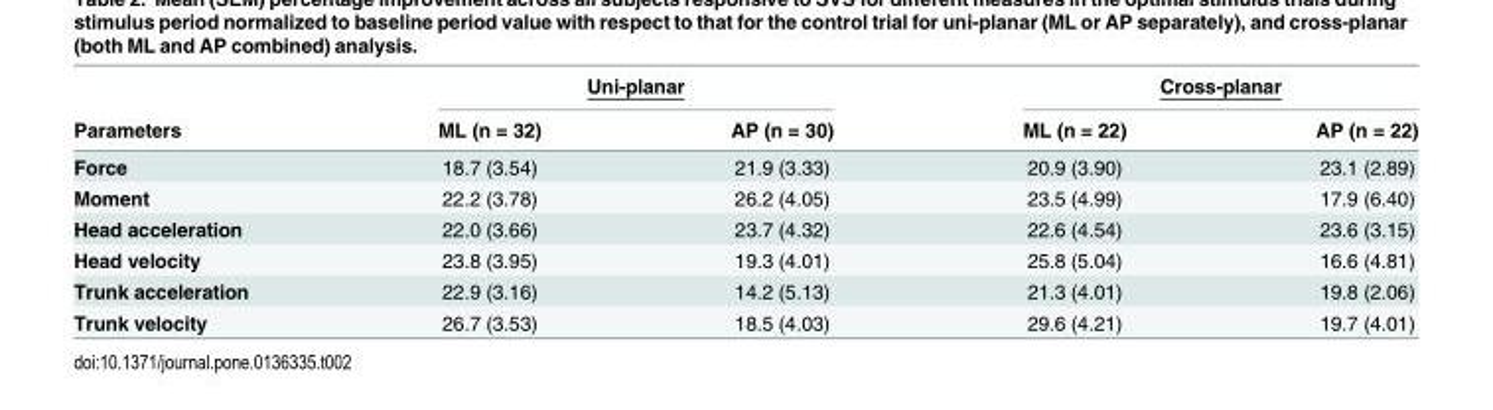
<table><thead><tr><td rowspan="2">Parameters</td><td colspan="2">Uni-planar</td><td colspan="2">Cross-planar</td></tr><tr><td>ML (n = 32)</td><td>AP (n = 30)</td><td>ML (n = 22)</td><td>AP (n = 22)</td></tr></thead><tbody><tr><td>Force</td><td>18.7 (3.54)</td><td>21.9 (3.33)</td><td>20.9 (3.90)</td><td>23.1 (2.89)</td></tr><tr><td>Moment</td><td>22.2 (3.78)</td><td>26.2 (4.05)</td><td>23.5 (4.99)</td><td>17.9 (6.40)</td></tr><tr><td>Head acceleration</td><td>22.0 (3.66)</td><td>23.7 (4.32)</td><td>22.6 (4.54)</td><td>23.6 (3.15)</td></tr><tr><td>Head velocity</td><td>23.8 (3.95)</td><td>19.3 (4.01)</td><td>25.8 (5.04)</td><td>16.6 (4.81)</td></tr><tr><td>Trunk acceleration</td><td>22.9 (3.16)</td><td>14.2 (5.13)</td><td>21.3 (4.01)</td><td>19.8 (2.06)</td></tr><tr><td>Trunk velocity</td><td>26.7 (3.53)</td><td>18.5 (4.03)</td><td>29.6 (4.21)</td><td>19.7 (4.01)</td></tr></tbody></table>